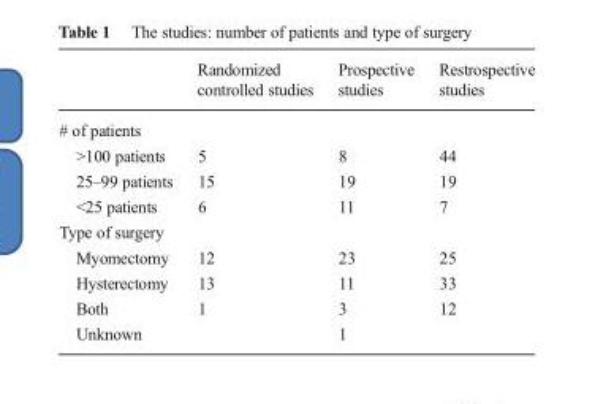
<table><thead><tr><td></td><td>Randomized controlled studies</td><td>Prospective studies</td><td>Restrospective studies</td></tr></thead><tbody><tr><td colspan="4"># of patients</td></tr><tr><td>&gt;100 patients</td><td>5</td><td>8</td><td>44</td></tr><tr><td>25–99 patients</td><td>15</td><td>19</td><td>19</td></tr><tr><td>&lt;25 patients</td><td>6</td><td>11</td><td>7</td></tr><tr><td colspan="4">Type of surgery</td></tr><tr><td>Myomectomy</td><td>12</td><td>23</td><td>25</td></tr><tr><td>Hysterectomy</td><td>13</td><td>11</td><td>33</td></tr><tr><td>Both</td><td>1</td><td>3</td><td>12</td></tr><tr><td>Unknown</td><td></td><td>1</td><td></td></tr></tbody></table>